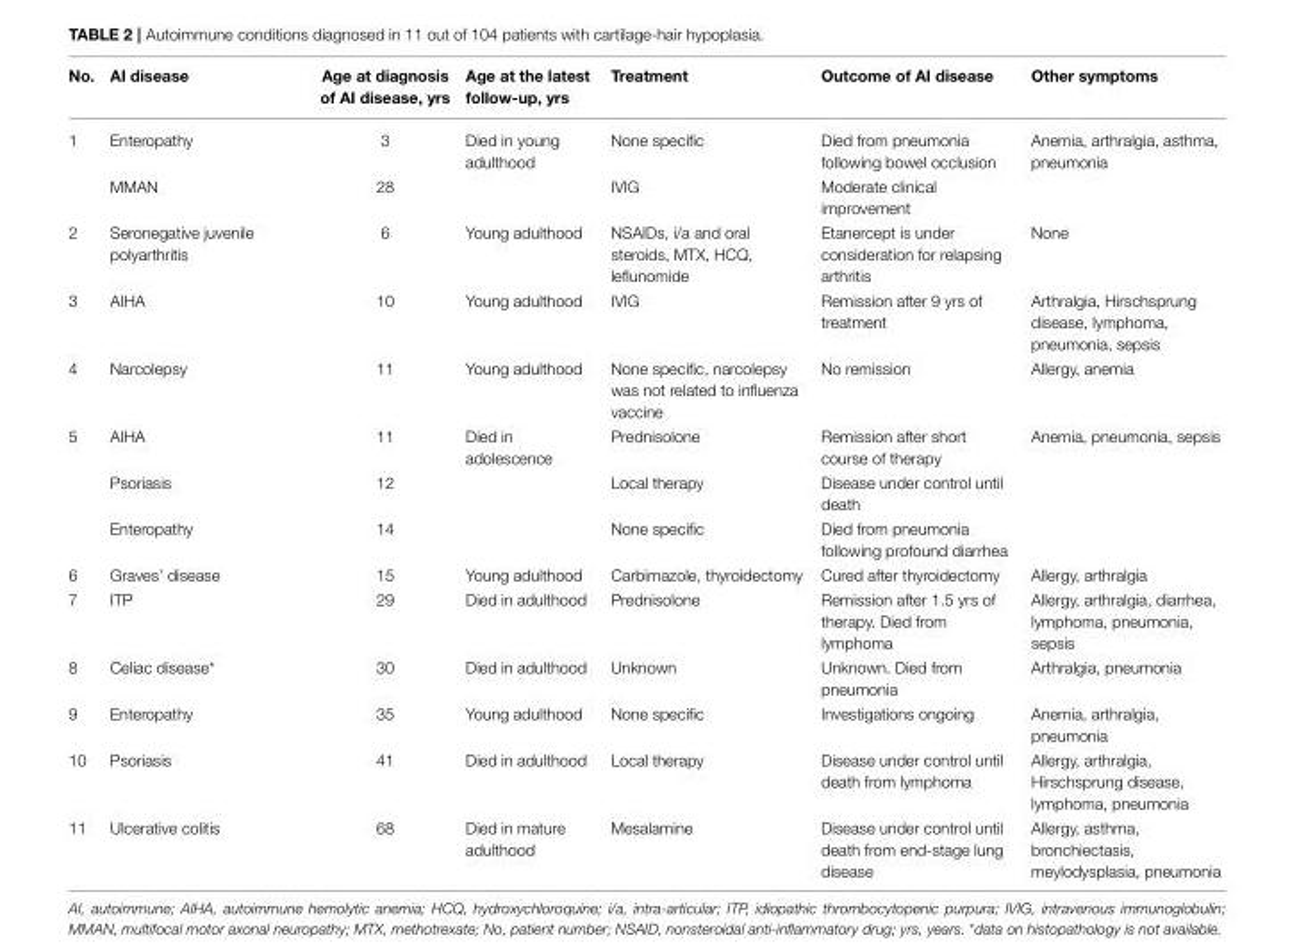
<table><thead><tr><td>No.</td><td>AI disease</td><td>Age at diagnosis of AI disease, yrs</td><td>Age at the latest follow-up, yrs</td><td>Treatment</td><td>Outcome of AI disease</td><td>Other symptoms</td></tr></thead><tbody><tr><td rowspan="2">1</td><td>Enteropathy</td><td>3</td><td>Died in young adulthood</td><td>None specific</td><td>Died from pneumonia following bowel occlusion</td><td>Anemia, arthralgia, asthma, pneumonia</td></tr><tr><td>MMAN</td><td>28</td><td></td><td>IVIG</td><td>Moderate clinical improvement</td><td></td></tr><tr><td>2</td><td>Seronegative juvenile polyarthritis</td><td>6</td><td>Young adulthood</td><td>NSAIDs, i/a and oral steroids, MTX, HCQ, leflunomide</td><td>Etanercept is under consideration for relapsing arthritis</td><td>None</td></tr><tr><td>3</td><td>AIHA</td><td>10</td><td>Young adulthood</td><td>IVIG</td><td>Remission after 9 yrs of treatment</td><td>Arthralgia, Hirschsprung disease, lymphoma, pneumonia, sepsis</td></tr><tr><td>4</td><td>Narcolepsy</td><td>11</td><td>Young adulthood</td><td>None specific, narcolepsy was not related to influenza vaccine</td><td>No remission</td><td>Allergy, anemia</td></tr><tr><td rowspan="3">5</td><td>AIHA</td><td>11</td><td>Died in adolescence</td><td>Prednisolone</td><td>Remission after short course of therapy</td><td>Anemia, pneumonia, sepsis</td></tr><tr><td>Psoriasis</td><td>12</td><td></td><td>Local therapy</td><td>Disease under control until death</td><td></td></tr><tr><td>Enteropathy</td><td>14</td><td></td><td>None specific</td><td>Died from pneumonia following profound diarrhea</td><td></td></tr><tr><td>6</td><td>Graves’ disease</td><td>15</td><td>Young adulthood</td><td>Carbimazole, thyroidectomy</td><td>Cured after thyroidectomy</td><td>Allergy, arthralgia</td></tr><tr><td>7</td><td>ITP</td><td>29</td><td>Died in adulthood</td><td>Prednisolone</td><td>Remission after 1.5 yrs of therapy. Died from lymphoma</td><td>Allergy, arthralgia, diarrhea, lymphoma, pneumonia, sepsis</td></tr><tr><td>8</td><td>Celiac disease*</td><td>30</td><td>Died in adulthood</td><td>Unknown</td><td>Unknown. Died from pneumonia</td><td>Arthralgia, pneumonia</td></tr><tr><td>9</td><td>Enteropathy</td><td>35</td><td>Young adulthood</td><td>None specific</td><td>Investigations ongoing</td><td>Anemia, arthralgia, pneumonia</td></tr><tr><td>10</td><td>Psoriasis</td><td>41</td><td>Died in adulthood</td><td>Local therapy</td><td>Disease under control until death from lymphoma</td><td>Allergy, arthralgia, Hirschsprung disease, lymphoma, pneumonia</td></tr><tr><td>11</td><td>Ulcerative colitis</td><td>68</td><td>Died in mature adulthood</td><td>Mesalamine</td><td>Disease under control until death from end-stage lung disease</td><td>Allergy, asthma, bronchiectasis, meylodysplasia, pneumonia</td></tr></tbody></table>